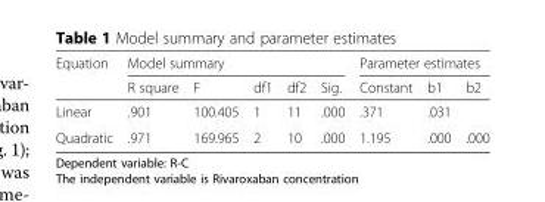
<table><thead><tr><td rowspan="2">Equation</td><td colspan="5">Model summary</td><td colspan="3">Parameter estimates</td></tr><tr><td>R square</td><td>F</td><td>df1</td><td>df2</td><td>Sig.</td><td>Constant</td><td>b1</td><td>b2</td></tr></thead><tbody><tr><td>Linear</td><td>.901</td><td>100.405</td><td>1</td><td>11</td><td>.000</td><td>.371</td><td>.031</td><td></td></tr><tr><td>Quadratic</td><td>.971</td><td>169.965</td><td>2</td><td>10</td><td>.000</td><td>1.195</td><td>.000</td><td>.000</td></tr></tbody></table>